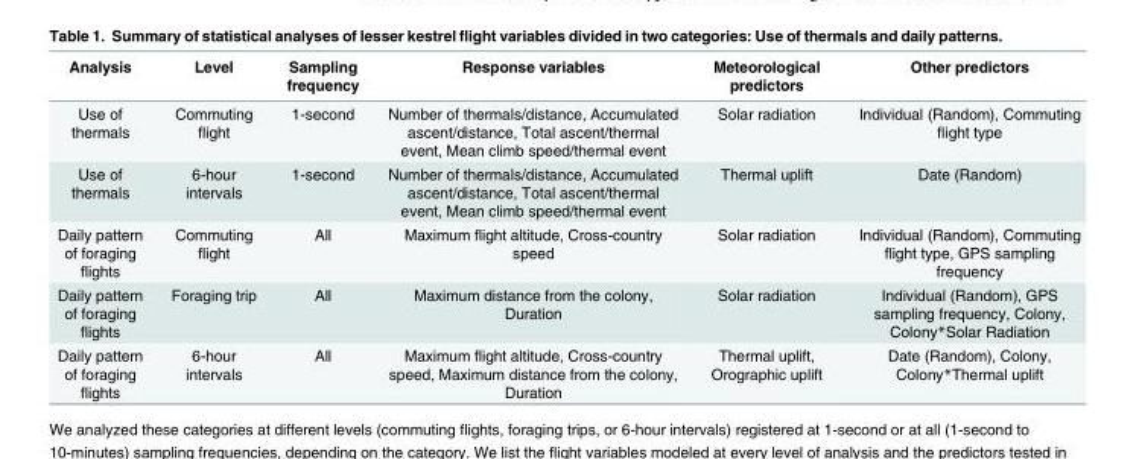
<table><thead><tr><td>Analysis</td><td>Level</td><td>Sampling frequency</td><td>Response variables</td><td>Meteorological predictors</td><td>Other predictors</td></tr></thead><tbody><tr><td>Use of thermals</td><td>Commuting flight</td><td>1-second</td><td>Number of thermals/distance, Accumulated ascent/distance, Total ascent/thermal event, Mean climb speed/thermal event</td><td>Solar radiation</td><td>Individual (Random), Commuting flight type</td></tr><tr><td>Use of thermals</td><td>6-hour intervals</td><td>1-second</td><td>Number of thermals/distance, Accumulated ascent/distance, Total ascent/thermal event, Mean climb speed/thermal event</td><td>Thermal uplift</td><td>Date (Random)</td></tr><tr><td>Daily pattern of foraging flights</td><td>Commuting flight</td><td>All</td><td>Maximum flight altitude, Cross-country speed</td><td>Solar radiation</td><td>Individual (Random), Commuting flight type, GPS sampling frequency</td></tr><tr><td>Daily pattern of foraging flights</td><td>Foraging trip</td><td>All</td><td>Maximum distance from the colony, Duration</td><td>Solar radiation</td><td>Individual (Random), GPS sampling frequency, Colony, Colony*Solar Radiation</td></tr><tr><td>Daily pattern of foraging flights</td><td>6-hour intervals</td><td>All</td><td>Maximum flight altitude, Cross-country speed, Maximum distance from the colony, Duration</td><td>Thermal uplift, Orographic uplift</td><td>Date (Random), Colony, Colony*Thermal uplift</td></tr></tbody></table>